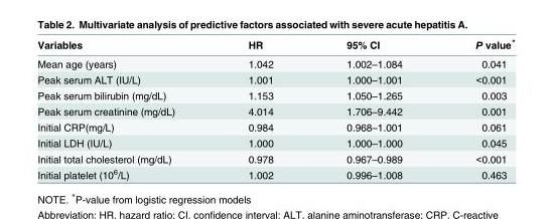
<table><thead><tr><td>Variables</td><td>HR</td><td>95% CI</td><td>P value*</td></tr></thead><tbody><tr><td>Mean age (years)</td><td>1.042</td><td>1.002–1.084</td><td>0.041</td></tr><tr><td>Peak serum ALT (IU/L)</td><td>1.001</td><td>1.000–1.001</td><td>&lt;0.001</td></tr><tr><td>Peak serum bilirubin (mg/dL)</td><td>1.153</td><td>1.050–1.265</td><td>0.003</td></tr><tr><td>Peak serum creatinine (mg/dL)</td><td>4.014</td><td>1.706–9.442</td><td>0.001</td></tr><tr><td>Initial CRP(mg/L)</td><td>0.984</td><td>0.968–1.001</td><td>0.061</td></tr><tr><td>Initial LDH (IU/L)</td><td>1.000</td><td>1.000–1.000</td><td>0.045</td></tr><tr><td>Initial total cholesterol (mg/dL)</td><td>0.978</td><td>0.967–0.989</td><td>&lt;0.001</td></tr><tr><td>Initial platelet (10<sup>6</sup>/L)</td><td>1.002</td><td>0.996–1.008</td><td>0.463</td></tr></tbody></table>